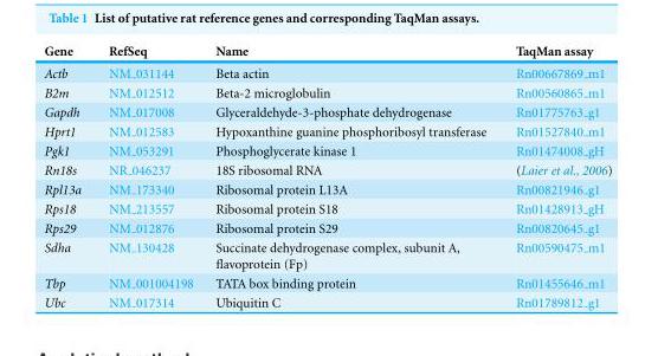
<table><thead><tr><td>Gene</td><td>RefSeq</td><td>Name</td><td>TaqMan assay</td></tr></thead><tbody><tr><td>Actb</td><td>NM 031144</td><td>Beta actin</td><td>Rn00667869 m1</td></tr><tr><td>B2m</td><td>NM 012512</td><td>Beta-2 microglobulin</td><td>Rn00560865 m1</td></tr><tr><td>Gapdh</td><td>NM 017008</td><td>Glyceraldehyde-3-phosphate dehydrogenase</td><td>Rn01775763 g1</td></tr><tr><td>Hprt1</td><td>NM 012583</td><td>Hypoxanthine guanine phosphoribosyl transferase</td><td>Rn01527840 m1</td></tr><tr><td>Pgk1</td><td>NM 053291</td><td>Phosphoglycerate kinase 1</td><td>Rn01474008 gH</td></tr><tr><td>Rn18s</td><td>NR 046237</td><td>18S ribosomal RNA</td><td>(Laier et al., 2006)</td></tr><tr><td>Rpl13a</td><td>NM 173340</td><td>Ribosomal protein L13A</td><td>Rn00821946 g1</td></tr><tr><td>Rps18</td><td>NM 213557</td><td>Ribosomal protein S18</td><td>Rn01428913 gH</td></tr><tr><td>Rps29</td><td>NM 012876</td><td>Ribosomal protein S29</td><td>Rn00820645 g1</td></tr><tr><td>Sdha</td><td>NM 130428</td><td>Succinate dehydrogenase complex, subunit A, flavoprotein (Fp)</td><td>Rn00590475 m1</td></tr><tr><td>Tbp</td><td>NM 001004198</td><td>TATA box binding protein</td><td>Rn01455646 m1</td></tr><tr><td>Ubc</td><td>NM 017314</td><td>Ubiquitin C</td><td>Rn01789812 g1</td></tr></tbody></table>